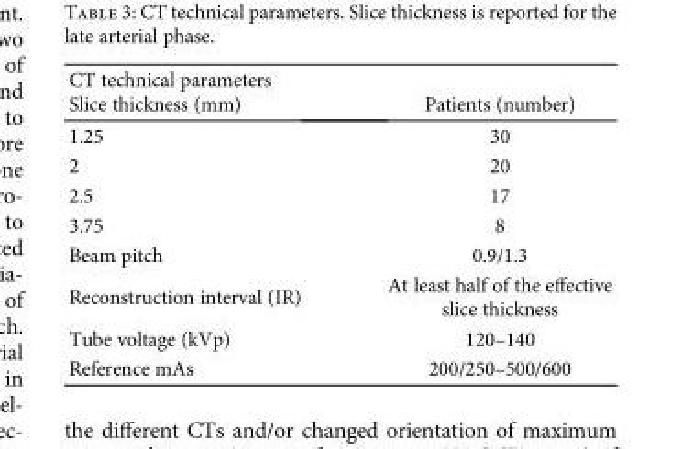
<table><thead><tr><td colspan="2">CT technical parameters</td></tr><tr><td>Slice thickness (mm)</td><td>Patients (number)</td></tr></thead><tbody><tr><td>1.25</td><td>30</td></tr><tr><td>2</td><td>20</td></tr><tr><td>2.5</td><td>17</td></tr><tr><td>3.75</td><td>8</td></tr><tr><td>Beam pitch</td><td>0.9/1.3</td></tr><tr><td>Reconstruction interval (IR)</td><td>At least half of the effective slice thickness</td></tr><tr><td>Tube voltage (kVp)</td><td>120–140</td></tr><tr><td>Reference mAs</td><td>200/250–500/600</td></tr></tbody></table>